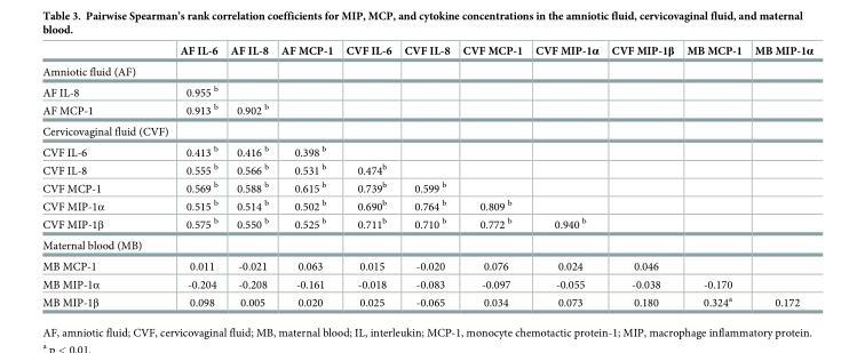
<table><thead><tr><td></td><td>AF IL-6</td><td>AF IL-8</td><td>AF MCP-1</td><td>CVF IL-6</td><td>CVF IL-8</td><td>CVF MCP-1</td><td>CVF MIP-1α</td><td>CVF MIP-1β</td><td>MB MCP-1</td><td>MB MIP-1α</td></tr></thead><tbody><tr><td colspan="11">Amniotic fluid (AF)</td></tr><tr><td>AF IL-8</td><td>0.955 <sup>b</sup></td><td></td><td></td><td></td><td></td><td></td><td></td><td></td><td></td><td></td></tr><tr><td>AF MCP-1</td><td>0.913 <sup>b</sup></td><td>0.902 <sup>b</sup></td><td></td><td></td><td></td><td></td><td></td><td></td><td></td><td></td></tr><tr><td colspan="11">Cervicovaginal fluid (CVF)</td></tr><tr><td>CVF IL-6</td><td>0.413 <sup>b</sup></td><td>0.416 <sup>b</sup></td><td>0.398 <sup>b</sup></td><td></td><td></td><td></td><td></td><td></td><td></td><td></td></tr><tr><td>CVF IL-8</td><td>0.555 <sup>b</sup></td><td>0.566 <sup>b</sup></td><td>0.531 <sup>b</sup></td><td>0.474<sup>b</sup></td><td></td><td></td><td></td><td></td><td></td><td></td></tr><tr><td>CVF MCP-1</td><td>0.569 <sup>b</sup></td><td>0.588 <sup>b</sup></td><td>0.615 <sup>b</sup></td><td>0.739<sup>b</sup></td><td>0.599 <sup>b</sup></td><td></td><td></td><td></td><td></td><td></td></tr><tr><td>CVF MIP-1α</td><td>0.515 <sup>b</sup></td><td>0.514 <sup>b</sup></td><td>0.502 <sup>b</sup></td><td>0.690<sup>b</sup></td><td>0.764 <sup>b</sup></td><td>0.809 <sup>b</sup></td><td></td><td></td><td></td><td></td></tr><tr><td>CVF MIP-1β</td><td>0.575 <sup>b</sup></td><td>0.550 <sup>b</sup></td><td>0.525 <sup>b</sup></td><td>0.711<sup>b</sup></td><td>0.710 <sup>b</sup></td><td>0.772 <sup>b</sup></td><td>0.940 <sup>b</sup></td><td></td><td></td><td></td></tr><tr><td colspan="11">Maternal blood (MB)</td></tr><tr><td>MB MCP-1</td><td>0.011</td><td>-0.021</td><td>0.063</td><td>0.015</td><td>-0.020</td><td>0.076</td><td>0.024</td><td>0.046</td><td></td><td></td></tr><tr><td>MB MIP-1α</td><td>-0.204</td><td>-0.208</td><td>-0.161</td><td>-0.018</td><td>-0.083</td><td>-0.097</td><td>-0.055</td><td>-0.038</td><td>-0.170</td><td></td></tr><tr><td>MB MIP-1β</td><td>0.098</td><td>0.005</td><td>0.020</td><td>0.025</td><td>-0.065</td><td>0.034</td><td>0.073</td><td>0.180</td><td>0.324<sup>a</sup></td><td>0.172</td></tr></tbody></table>